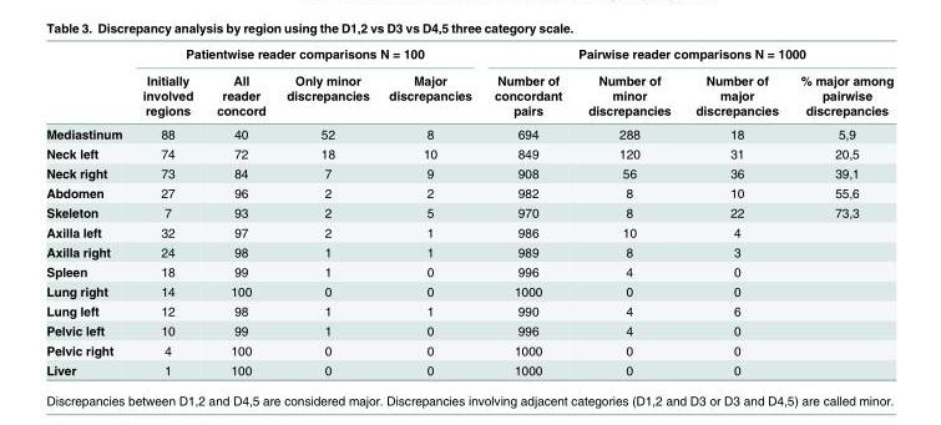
<table><thead><tr><td rowspan="2"></td><td colspan="4">Patientwise reader comparisons N = 100</td><td colspan="4">Pairwise reader comparisons N = 1000</td></tr><tr><td>Initially involved regions</td><td>All reader concord</td><td>Only minor discrepancies</td><td>Major discrepancies</td><td>Number of concordant pairs</td><td>Number of minor discrepancies</td><td>Number of major discrepancies</td><td>% major among pairwise discrepancies</td></tr></thead><tbody><tr><td>Mediastinum</td><td>88</td><td>40</td><td>52</td><td>8</td><td>694</td><td>288</td><td>18</td><td>5,9</td></tr><tr><td>Neck left</td><td>74</td><td>72</td><td>18</td><td>10</td><td>849</td><td>120</td><td>31</td><td>20,5</td></tr><tr><td>Neck right</td><td>73</td><td>84</td><td>7</td><td>9</td><td>908</td><td>56</td><td>36</td><td>39,1</td></tr><tr><td>Abdomen</td><td>27</td><td>96</td><td>2</td><td>2</td><td>982</td><td>8</td><td>10</td><td>55,6</td></tr><tr><td>Skeleton</td><td>7</td><td>93</td><td>2</td><td>5</td><td>970</td><td>8</td><td>22</td><td>73,3</td></tr><tr><td>Axilla left</td><td>32</td><td>97</td><td>2</td><td>1</td><td>986</td><td>10</td><td>4</td><td></td></tr><tr><td>Axilla right</td><td>24</td><td>98</td><td>1</td><td>1</td><td>989</td><td>8</td><td>3</td><td></td></tr><tr><td>Spleen</td><td>18</td><td>99</td><td>1</td><td>0</td><td>996</td><td>4</td><td>0</td><td></td></tr><tr><td>Lung right</td><td>14</td><td>100</td><td>0</td><td>0</td><td>1000</td><td>0</td><td>0</td><td></td></tr><tr><td>Lung left</td><td>12</td><td>98</td><td>1</td><td>1</td><td>990</td><td>4</td><td>6</td><td></td></tr><tr><td>Pelvic left</td><td>10</td><td>99</td><td>1</td><td>0</td><td>996</td><td>4</td><td>0</td><td></td></tr><tr><td>Pelvic right</td><td>4</td><td>100</td><td>0</td><td>0</td><td>1000</td><td>0</td><td>0</td><td></td></tr><tr><td>Liver</td><td>1</td><td>100</td><td>0</td><td>0</td><td>1000</td><td>0</td><td>0</td><td></td></tr></tbody></table>